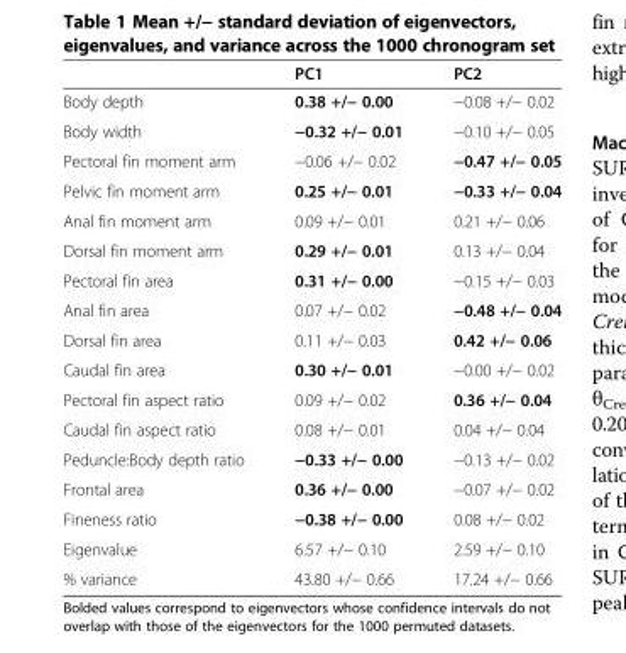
<table><thead><tr><td></td><td>PC1</td><td>PC2</td></tr></thead><tbody><tr><td>Body depth</td><td>0.38 +/− 0.00</td><td>−0.08 +/− 0.02</td></tr><tr><td>Body width</td><td>−0.32 +/− 0.01</td><td>−0.10 +/− 0.05</td></tr><tr><td>Pectoral fin moment arm</td><td>−0.06 +/− 0.02</td><td>−0.47 +/− 0.05</td></tr><tr><td>Pelvic fin moment arm</td><td>0.25 +/− 0.01</td><td>−0.33 +/− 0.04</td></tr><tr><td>Anal fin moment arm</td><td>0.09 +/− 0.01</td><td>0.21 +/− 0.06</td></tr><tr><td>Dorsal fin moment arm</td><td>0.29 +/− 0.01</td><td>0.13 +/− 0.04</td></tr><tr><td>Pectoral fin area</td><td>0.31 +/− 0.00</td><td>−0.15 +/− 0.03</td></tr><tr><td>Anal fin area</td><td>0.07 +/− 0.02</td><td>−0.48 +/− 0.04</td></tr><tr><td>Dorsal fin area</td><td>0.11 +/− 0.03</td><td>0.42 +/− 0.06</td></tr><tr><td>Caudal fin area</td><td>0.30 +/− 0.01</td><td>−0.00 +/− 0.02</td></tr><tr><td>Pectoral fin aspect ratio</td><td>0.09 +/− 0.02</td><td>0.36 +/− 0.04</td></tr><tr><td>Caudal fin aspect ratio</td><td>0.08 +/− 0.01</td><td>0.04 +/− 0.04</td></tr><tr><td>Peduncle:Body depth ratio</td><td>−0.33 +/− 0.00</td><td>−0.13 +/− 0.02</td></tr><tr><td>Frontal area</td><td>0.36 +/− 0.00</td><td>−0.07 +/− 0.02</td></tr><tr><td>Fineness ratio</td><td>−0.38 +/− 0.00</td><td>0.08 +/− 0.02</td></tr><tr><td>Eigenvalue</td><td>6.57 +/− 0.10</td><td>2.59 +/− 0.10</td></tr><tr><td>% variance</td><td>43.80 +/− 0.66</td><td>17.24 +/− 0.66</td></tr></tbody></table>